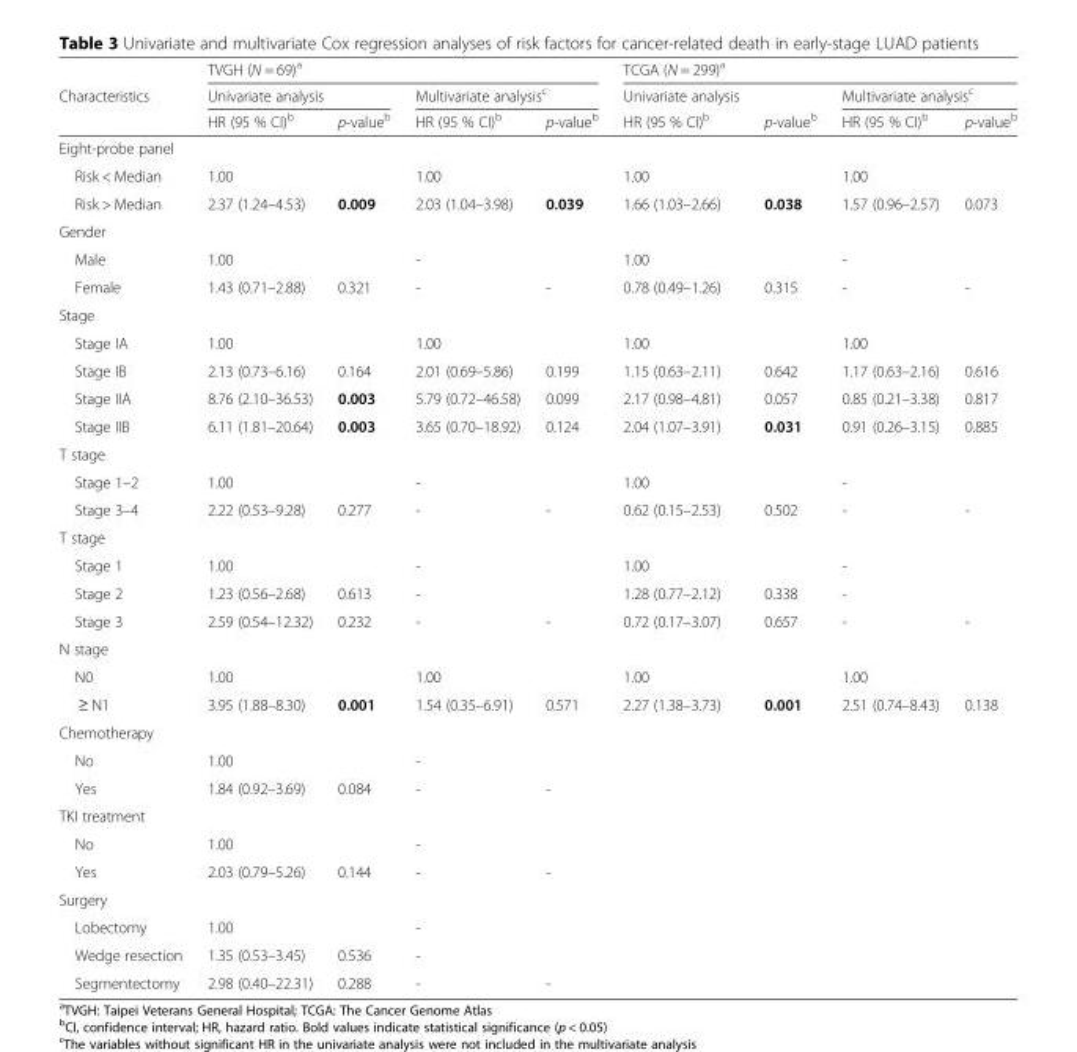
<table><thead><tr><td rowspan="3">Characteristics</td><td colspan="4">TVGH (N = 69)<sup>a</sup></td><td colspan="4">TCGA (N = 299)<sup>a</sup></td></tr><tr><td colspan="2">Univariate analysis</td><td colspan="2">Multivariate analysis<sup>c</sup></td><td rowspan="2">Univariate analysis HR (95 % CI)<sup>b</sup></td><td rowspan="2">p-value<sup>b</sup></td><td colspan="2">Multivariate analysis<sup>c</sup></td></tr><tr><td>HR (95 % CI)<sup>b</sup></td><td>p-value<sup>b</sup></td><td>HR (95 % CI)<sup>b</sup></td><td>p-value<sup>b</sup></td><td>HR (95 % CI)<sup>b</sup></td><td>p-value<sup>b</sup></td></tr></thead><tbody><tr><td colspan="9">Eight-probe panel</td></tr><tr><td>Risk &lt; Median</td><td>1.00</td><td></td><td>1.00</td><td></td><td>1.00</td><td></td><td>1.00</td><td></td></tr><tr><td>Risk &gt; Median</td><td>2.37 (1.24–4.53)</td><td>0.009</td><td>2.03 (1.04–3.98)</td><td>0.039</td><td>1.66 (1.03–2.66)</td><td>0.038</td><td>1.57 (0.96–2.57)</td><td>0.073</td></tr><tr><td colspan="9">Gender</td></tr><tr><td>Male</td><td>1.00</td><td></td><td>-</td><td></td><td>1.00</td><td></td><td>-</td><td></td></tr><tr><td>Female</td><td>1.43 (0.71–2.88)</td><td>0.321</td><td>-</td><td>-</td><td>0.78 (0.49–1.26)</td><td>0.315</td><td>-</td><td>-</td></tr><tr><td colspan="9">Stage</td></tr><tr><td>Stage IA</td><td>1.00</td><td></td><td>1.00</td><td></td><td>1.00</td><td></td><td>1.00</td><td></td></tr><tr><td>Stage IB</td><td>2.13 (0.73–6.16)</td><td>0.164</td><td>2.01 (0.69–5.86)</td><td>0.199</td><td>1.15 (0.63–2.11)</td><td>0.642</td><td>1.17 (0.63–2.16)</td><td>0.616</td></tr><tr><td>Stage IIA</td><td>8.76 (2.10–36.53)</td><td>0.003</td><td>5.79 (0.72–46.58)</td><td>0.099</td><td>2.17 (0.98–4.81)</td><td>0.057</td><td>0.85 (0.21–3.38)</td><td>0.817</td></tr><tr><td>Stage IIB</td><td>6.11 (1.81–20.64)</td><td>0.003</td><td>3.65 (0.70–18.92)</td><td>0.124</td><td>2.04 (1.07–3.91)</td><td>0.031</td><td>0.91 (0.26–3.15)</td><td>0.885</td></tr><tr><td colspan="9">T stage</td></tr><tr><td>Stage 1–2</td><td>1.00</td><td></td><td>-</td><td></td><td>1.00</td><td></td><td>-</td><td></td></tr><tr><td>Stage 3–4</td><td>2.22 (0.53–9.28)</td><td>0.277</td><td>-</td><td>-</td><td>0.62 (0.15–2.53)</td><td>0.502</td><td>-</td><td>-</td></tr><tr><td colspan="9">T stage</td></tr><tr><td>Stage 1</td><td>1.00</td><td></td><td>-</td><td></td><td>1.00</td><td></td><td>-</td><td></td></tr><tr><td>Stage 2</td><td>1.23 (0.56–2.68)</td><td>0.613</td><td>-</td><td></td><td>1.28 (0.77–2.12)</td><td>0.338</td><td>-</td><td></td></tr><tr><td>Stage 3</td><td>2.59 (0.54–12.32)</td><td>0.232</td><td>-</td><td>-</td><td>0.72 (0.17–3.07)</td><td>0.657</td><td>-</td><td>-</td></tr><tr><td colspan="9">N stage</td></tr><tr><td>N0</td><td>1.00</td><td></td><td>1.00</td><td></td><td>1.00</td><td></td><td>1.00</td><td></td></tr><tr><td>≥ N1</td><td>3.95 (1.88–8.30)</td><td>0.001</td><td>1.54 (0.35–6.91)</td><td>0.571</td><td>2.27 (1.38–3.73)</td><td>0.001</td><td>2.51 (0.74–8.43)</td><td>0.138</td></tr><tr><td colspan="9">Chemotherapy</td></tr><tr><td>No</td><td>1.00</td><td></td><td>-</td><td></td><td></td><td></td><td></td><td></td></tr><tr><td>Yes</td><td>1.84 (0.92–3.69)</td><td>0.084</td><td>-</td><td>-</td><td></td><td></td><td></td><td></td></tr><tr><td colspan="9">TKI treatment</td></tr><tr><td>No</td><td>1.00</td><td></td><td>-</td><td></td><td></td><td></td><td></td><td></td></tr><tr><td>Yes</td><td>2.03 (0.79–5.26)</td><td>0.144</td><td>-</td><td>-</td><td></td><td></td><td></td><td></td></tr><tr><td colspan="9">Surgery</td></tr><tr><td>Lobectomy</td><td>1.00</td><td></td><td>-</td><td></td><td></td><td></td><td></td><td></td></tr><tr><td>Wedge resection</td><td>1.35 (0.53–3.45)</td><td>0.536</td><td>-</td><td></td><td></td><td></td><td></td><td></td></tr><tr><td>Segmentectomy</td><td>2.98 (0.40–22.31)</td><td>0.288</td><td>-</td><td>-</td><td></td><td></td><td></td><td></td></tr></tbody></table>